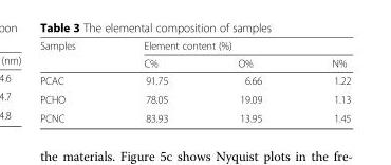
<table><thead><tr><td rowspan="2">Samples</td><td colspan="3">Element content (%)</td></tr><tr><td>C%</td><td>O%</td><td>N%</td></tr></thead><tbody><tr><td>PCAC</td><td>91.75</td><td>6.66</td><td>1.22</td></tr><tr><td>PCHO</td><td>78.05</td><td>19.09</td><td>1.13</td></tr><tr><td>PCNC</td><td>83.93</td><td>13.95</td><td>1.45</td></tr></tbody></table>